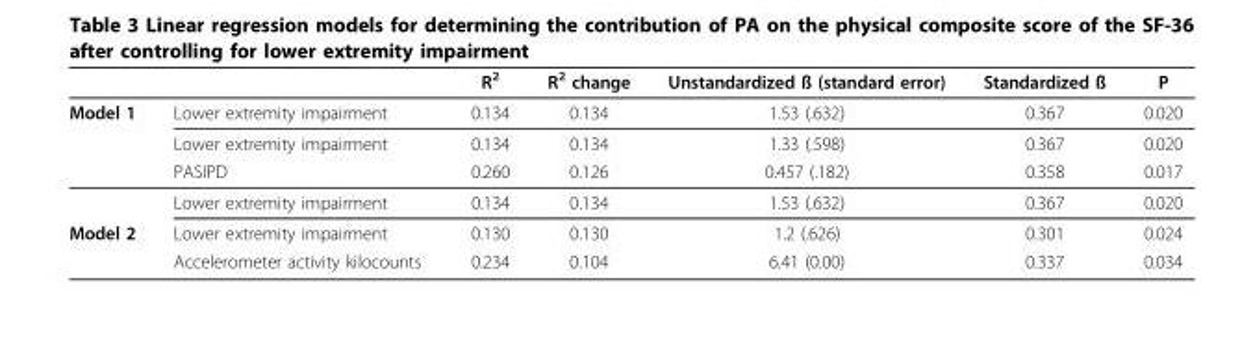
<table><thead><tr><td></td><td></td><td>R<sup>2</sup></td><td>R<sup>2</sup> change</td><td>Unstandardized ß (standard error)</td><td>Standardized ß</td><td>P</td></tr></thead><tbody><tr><td rowspan="4">Model 1</td><td>Lower extremity impairment</td><td>0.134</td><td>0.134</td><td>1.53 (.632)</td><td>0.367</td><td>0.020</td></tr><tr><td>Lower extremity impairment</td><td>0.134</td><td>0.134</td><td>1.33 (.598)</td><td>0.367</td><td>0.020</td></tr><tr><td>PASIPD</td><td>0.260</td><td>0.126</td><td>0.457 (.182)</td><td>0.358</td><td>0.017</td></tr><tr><td>Lower extremity impairment</td><td>0.134</td><td>0.134</td><td>1.53 (.632)</td><td>0.367</td><td>0.020</td></tr><tr><td rowspan="2">Model 2</td><td>Lower extremity impairment</td><td>0.130</td><td>0.130</td><td>1.2 (.626)</td><td>0.301</td><td>0.024</td></tr><tr><td>Accelerometer activity kilocounts</td><td>0.234</td><td>0.104</td><td>6.41 (0.00)</td><td>0.337</td><td>0.034</td></tr></tbody></table>